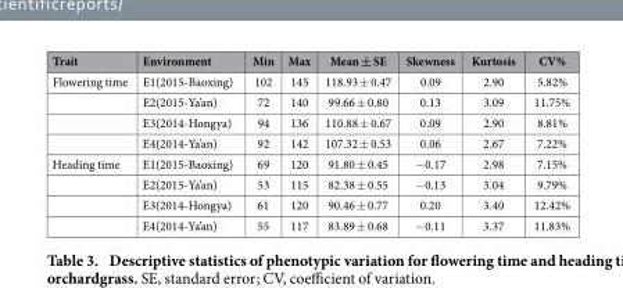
<table><thead><tr><td>Trait</td><td>Environment</td><td>Min</td><td>Max</td><td>Mean ± SE</td><td>Skewness</td><td>Kurtosis</td><td>CV%</td></tr></thead><tbody><tr><td rowspan="4">Flowering time</td><td>E1(2015-Baoxing)</td><td>102</td><td>145</td><td>118.93 ± 0.47</td><td>0.09</td><td>2.90</td><td>5.82%</td></tr><tr><td>E2(2015-Ya’an)</td><td>72</td><td>140</td><td>99.66 ± 0.80</td><td>0.13</td><td>3.09</td><td>11.75%</td></tr><tr><td>E3(2014-Hongya)</td><td>94</td><td>136</td><td>110.88 ± 0.67</td><td>0.09</td><td>2.90</td><td>8.81%</td></tr><tr><td>E4(2014-Ya’an)</td><td>92</td><td>142</td><td>107.32 ± 0.53</td><td>0.06</td><td>2.67</td><td>7.22%</td></tr><tr><td rowspan="4">Heading time</td><td>E1(2015-Baoxing)</td><td>69</td><td>120</td><td>91.80 ± 0.45</td><td>− 0.17</td><td>2.98</td><td>7.15%</td></tr><tr><td>E2(2015-Ya’an)</td><td>53</td><td>115</td><td>82.38 ± 0.55</td><td>− 0.13</td><td>3.04</td><td>9.79%</td></tr><tr><td>E3(2014-Hongya)</td><td>61</td><td>120</td><td>90.46 ± 0.77</td><td>0.20</td><td>3.40</td><td>12.42%</td></tr><tr><td>E4(2014-Ya’an)</td><td>55</td><td>117</td><td>83.89 ± 0.68</td><td>− 0.11</td><td>3.37</td><td>11.83%</td></tr></tbody></table>